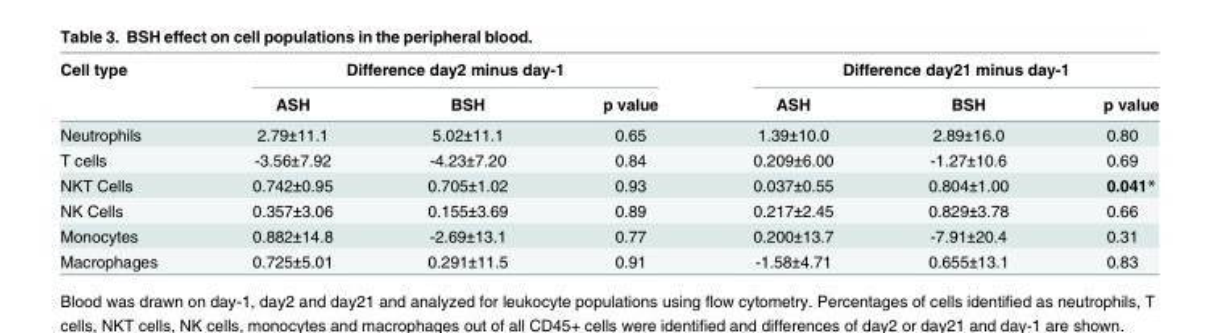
<table><thead><tr><td rowspan="2">Cell type</td><td colspan="3">Difference day2 minus day-1</td><td colspan="3">Difference day21 minus day-1</td></tr><tr><td>ASH</td><td>BSH</td><td>p value</td><td>ASH</td><td>BSH</td><td>p value</td></tr></thead><tbody><tr><td>Neutrophils</td><td>2.79±11.1</td><td>5.02±11.1</td><td>0.65</td><td>1.39±10.0</td><td>2.89±16.0</td><td>0.80</td></tr><tr><td>T cells</td><td>-3.56±7.92</td><td>-4.23±7.20</td><td>0.84</td><td>0.209±6.00</td><td>-1.27±10.6</td><td>0.69</td></tr><tr><td>NKT Cells</td><td>0.742±0.95</td><td>0.705±1.02</td><td>0.93</td><td>0.037±0.55</td><td>0.804±1.00</td><td>0.041*</td></tr><tr><td>NK Cells</td><td>0.357±3.06</td><td>0.155±3.69</td><td>0.89</td><td>0.217±2.45</td><td>0.829±3.78</td><td>0.66</td></tr><tr><td>Monocytes</td><td>0.882±14.8</td><td>-2.69±13.1</td><td>0.77</td><td>0.200±13.7</td><td>-7.91±20.4</td><td>0.31</td></tr><tr><td>Macrophages</td><td>0.725±5.01</td><td>0.291±11.5</td><td>0.91</td><td>-1.58±4.71</td><td>0.655±13.1</td><td>0.83</td></tr></tbody></table>